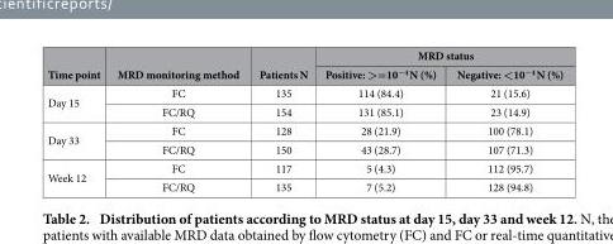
<table><thead><tr><td rowspan="2">Time point</td><td rowspan="2">MRD monitoring method</td><td rowspan="2">Patients N</td><td colspan="2">MRD status</td></tr><tr><td>Positive: &gt;=10<sup>−4</sup> N (%)</td><td>Negative: &lt;10<sup>−4</sup> N (%)</td></tr></thead><tbody><tr><td rowspan="2">Day 15</td><td>FC</td><td>135</td><td>114 (84.4)</td><td>21 (15.6)</td></tr><tr><td>FC/RQ</td><td>154</td><td>131 (85.1)</td><td>23 (14.9)</td></tr><tr><td rowspan="2">Day 33</td><td>FC</td><td>128</td><td>28 (21.9)</td><td>100 (78.1)</td></tr><tr><td>FC/RQ</td><td>150</td><td>43 (28.7)</td><td>107 (71.3)</td></tr><tr><td rowspan="2">Week 12</td><td>FC</td><td>117</td><td>5 (4.3)</td><td>112 (95.7)</td></tr><tr><td>FC/RQ</td><td>135</td><td>7 (5.2)</td><td>128 (94.8)</td></tr></tbody></table>